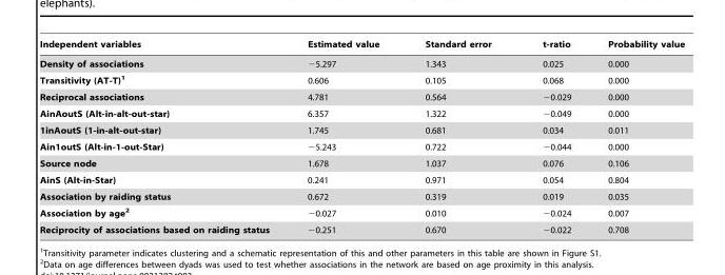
<table><thead><tr><td>Independent variables</td><td>Estimated value</td><td>Standard error</td><td>t-ratio</td><td>Probability value</td></tr></thead><tbody><tr><td>Density of associations</td><td>−5.297</td><td>1.343</td><td>0.025</td><td>0.000</td></tr><tr><td>Transitivity (AT-T)1</td><td>0.606</td><td>0.105</td><td>0.068</td><td>0.000</td></tr><tr><td>Reciprocal associations</td><td>4.781</td><td>0.564</td><td>−0.029</td><td>0.000</td></tr><tr><td>AinAoutS (Alt-in-alt-out-star)</td><td>6.357</td><td>1.322</td><td>−0.049</td><td>0.000</td></tr><tr><td>1inAoutS (1-in-alt-out-star)</td><td>1.745</td><td>0.681</td><td>0.034</td><td>0.011</td></tr><tr><td>Ain1outS (Alt-in-1-out-Star)</td><td>−5.243</td><td>0.722</td><td>−0.044</td><td>0.000</td></tr><tr><td>Source node</td><td>1.678</td><td>1.037</td><td>0.076</td><td>0.106</td></tr><tr><td>AinS (Alt-in-Star)</td><td>0.241</td><td>0.971</td><td>0.054</td><td>0.804</td></tr><tr><td>Association by raiding status</td><td>0.672</td><td>0.319</td><td>0.019</td><td>0.035</td></tr><tr><td>Association by age2</td><td>−0.027</td><td>0.010</td><td>−0.024</td><td>0.007</td></tr><tr><td>Reciprocity of associations based on raiding status</td><td>−0.251</td><td>0.670</td><td>−0.022</td><td>0.708</td></tr></tbody></table>